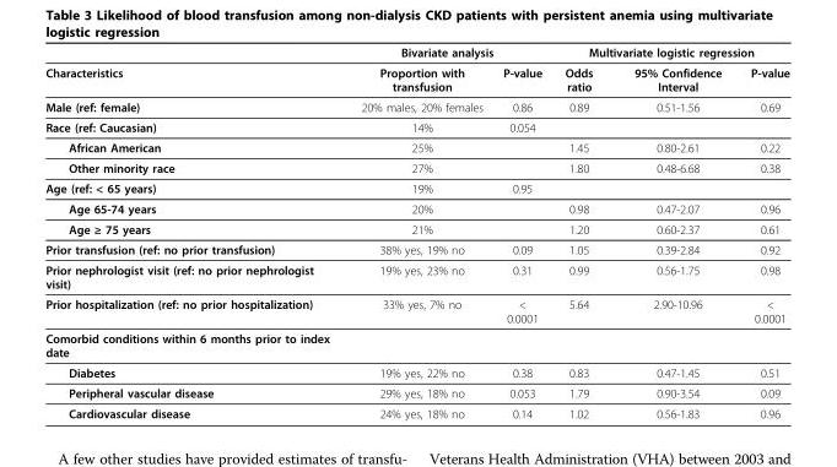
<table><thead><tr><td rowspan="2">Characteristics</td><td colspan="2">Bivariate analysis</td><td colspan="3">Multivariate logistic regression</td></tr><tr><td>Proportion with transfusion</td><td>P-value</td><td>Odds ratio</td><td>95% Confidence Interval</td><td>P-value</td></tr></thead><tbody><tr><td>Male (ref: female)</td><td>20% males, 20% females</td><td>0.86</td><td>0.89</td><td>0.51-1.56</td><td>0.69</td></tr><tr><td>Race (ref: Caucasian)</td><td>14%</td><td>0.054</td><td></td><td></td><td></td></tr><tr><td>African American</td><td>25%</td><td></td><td>1.45</td><td>0.80-2.61</td><td>0.22</td></tr><tr><td>Other minority race</td><td>27%</td><td></td><td>1.80</td><td>0.48-6.68</td><td>0.38</td></tr><tr><td>Age (ref: &lt; 65 years)</td><td>19%</td><td>0.95</td><td></td><td></td><td></td></tr><tr><td>Age 65-74 years</td><td>20%</td><td></td><td>0.98</td><td>0.47-2.07</td><td>0.96</td></tr><tr><td>Age ≥ 75 years</td><td>21%</td><td></td><td>1.20</td><td>0.60-2.37</td><td>0.61</td></tr><tr><td>Prior transfusion (ref: no prior transfusion)</td><td>38% yes, 19% no</td><td>0.09</td><td>1.05</td><td>0.39-2.84</td><td>0.92</td></tr><tr><td>Prior nephrologist visit (ref: no prior nephrologist visit)</td><td>19% yes, 23% no</td><td>0.31</td><td>0.99</td><td>0.56-1.75</td><td>0.98</td></tr><tr><td>Prior hospitalization (ref: no prior hospitalization)</td><td>33% yes, 7% no</td><td>&lt; 0.0001</td><td>5.64</td><td>2.90-10.96</td><td>&lt; 0.0001</td></tr><tr><td colspan="6">Comorbid conditions within 6 months prior to index date</td></tr><tr><td>Diabetes</td><td>19% yes, 22% no</td><td>0.38</td><td>0.83</td><td>0.47-1.45</td><td>0.51</td></tr><tr><td>Peripheral vascular disease</td><td>29% yes, 18% no</td><td>0.053</td><td>1.79</td><td>0.90-3.54</td><td>0.09</td></tr><tr><td>Cardiovascular disease</td><td>24% yes, 18% no</td><td>0.14</td><td>1.02</td><td>0.56-1.83</td><td>0.96</td></tr></tbody></table>